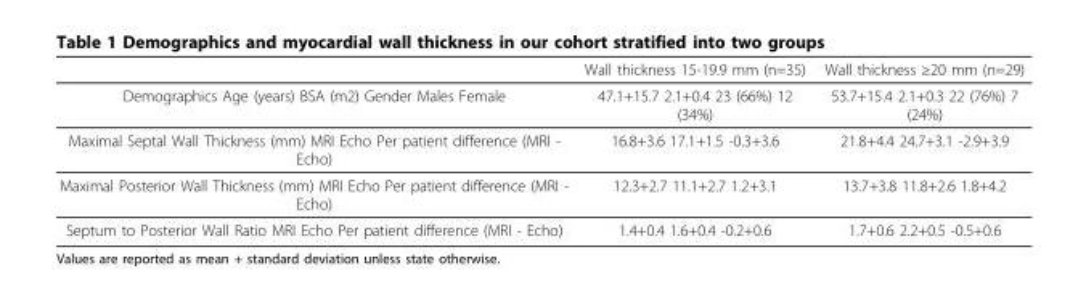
<table><thead><tr><td></td><td>Wall thickness 15-19.9 mm (n=35)</td><td>Wall thickness ≥20 mm (n=29)</td></tr></thead><tbody><tr><td>Demographics Age (years) BSA (m2) Gender Males Female</td><td>47.1+15.7 2.1+0.4 23 (66%) 12 (34%)</td><td>53.7+15.4 2.1+0.3 22 (76%) 7 (24%)</td></tr><tr><td>Maximal Septal Wall Thickness (mm) MRI Echo Per patient difference (MRI - Echo)</td><td>16.8+3.6 17.1+1.5 -0.3+3.6</td><td>21.8+4.4 24.7+3.1 -2.9+3.9</td></tr><tr><td>Maximal Posterior Wall Thickness (mm) MRI Echo Per patient difference (MRI - Echo)</td><td>12.3+2.7 11.1+2.7 1.2+3.1</td><td>13.7+3.8 11.8+2.6 1.8+4.2</td></tr><tr><td>Septum to Posterior Wall Ratio MRI Echo Per patient difference (MRI - Echo)</td><td>1.4+0.4 1.6+0.4 -0.2+0.6</td><td>1.7+0.6 2.2+0.5 -0.5+0.6</td></tr></tbody></table>